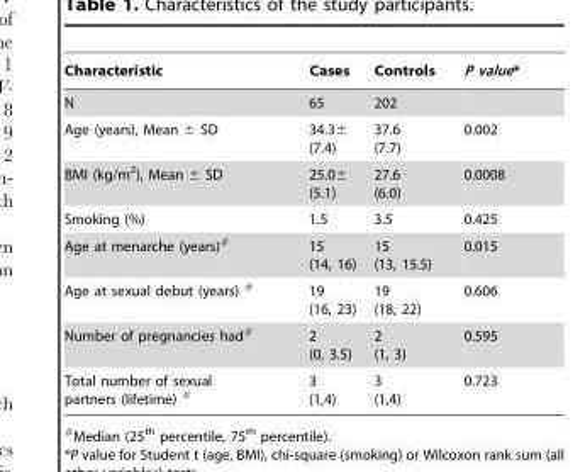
<table><thead><tr><td>Characteristic</td><td>Cases</td><td>Controls</td><td>P value*</td></tr></thead><tbody><tr><td>N</td><td>65</td><td>202</td><td></td></tr><tr><td>Age (years), Mean ± SD</td><td>34.3± (7.4)</td><td>37.6 (7.7)</td><td>0.002</td></tr><tr><td>BMI (kg/m<sup>2</sup>), Mean ± SD</td><td>25.0± (5.1)</td><td>27.6 (6.0)</td><td>0.0008</td></tr><tr><td>Smoking (%)</td><td>1.5</td><td>3.5</td><td>0.425</td></tr><tr><td>Age at menarche (years)#</td><td>15 (14, 16)</td><td>15 (13, 15.5)</td><td>0.015</td></tr><tr><td>Age at sexual debut (years) #</td><td>19 (16, 23)</td><td>19 (18, 22)</td><td>0.606</td></tr><tr><td>Number of pregnancies had#</td><td>2 (0, 3.5)</td><td>2 (1, 3)</td><td>0.595</td></tr><tr><td>Total number of sexual partners (lifetime) #</td><td>3 (1,4)</td><td>3 (1,4)</td><td>0.723</td></tr></tbody></table>